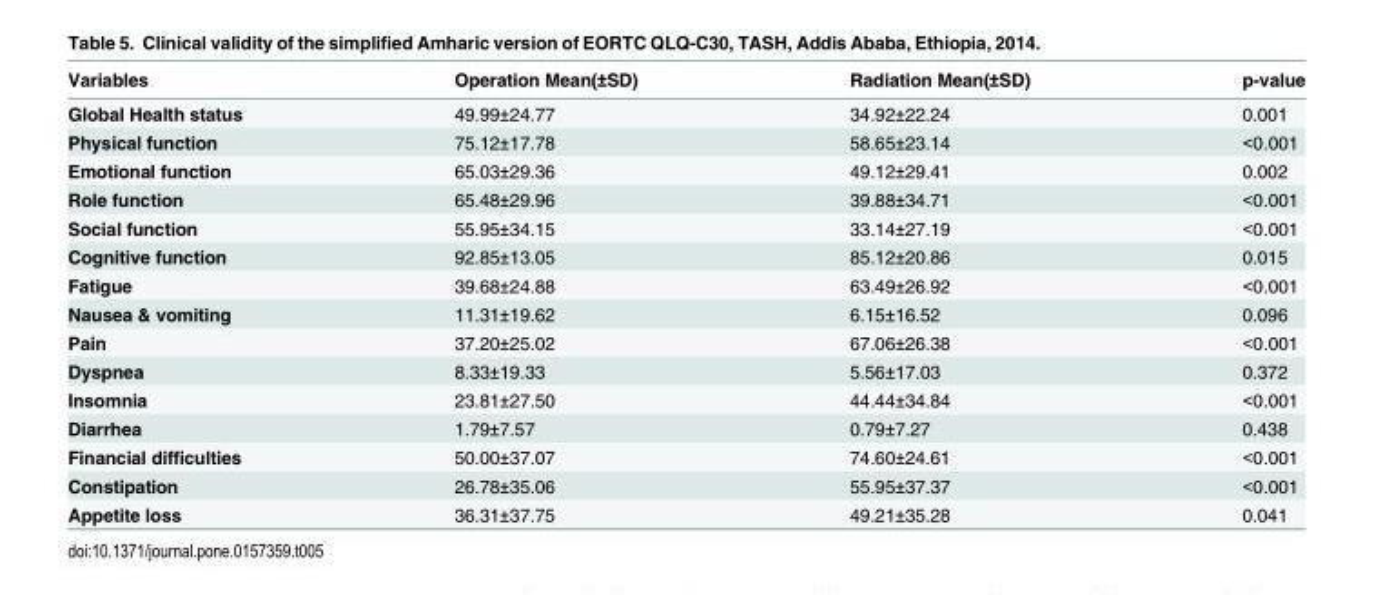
<table><thead><tr><td>Variables</td><td>Operation Mean(±SD)</td><td>Radiation Mean(±SD)</td><td>p-value</td></tr></thead><tbody><tr><td>Global Health status</td><td>49.99±24.77</td><td>34.92±22.24</td><td>0.001</td></tr><tr><td>Physical function</td><td>75.12±17.78</td><td>58.65±23.14</td><td>&lt;0.001</td></tr><tr><td>Emotional function</td><td>65.03±29.36</td><td>49.12±29.41</td><td>0.002</td></tr><tr><td>Role function</td><td>65.48±29.96</td><td>39.88±34.71</td><td>&lt;0.001</td></tr><tr><td>Social function</td><td>55.95±34.15</td><td>33.14±27.19</td><td>&lt;0.001</td></tr><tr><td>Cognitive function</td><td>92.85±13.05</td><td>85.12±20.86</td><td>0.015</td></tr><tr><td>Fatigue</td><td>39.68±24.88</td><td>63.49±26.92</td><td>&lt;0.001</td></tr><tr><td>Nausea &amp; vomiting</td><td>11.31±19.62</td><td>6.15±16.52</td><td>0.096</td></tr><tr><td>Pain</td><td>37.20±25.02</td><td>67.06±26.38</td><td>&lt;0.001</td></tr><tr><td>Dyspnea</td><td>8.33±19.33</td><td>5.56±17.03</td><td>0.372</td></tr><tr><td>Insomnia</td><td>23.81±27.50</td><td>44.44±34.84</td><td>&lt;0.001</td></tr><tr><td>Diarrhea</td><td>1.79±7.57</td><td>0.79±7.27</td><td>0.438</td></tr><tr><td>Financial difficulties</td><td>50.00±37.07</td><td>74.60±24.61</td><td>&lt;0.001</td></tr><tr><td>Constipation</td><td>26.78±35.06</td><td>55.95±37.37</td><td>&lt;0.001</td></tr><tr><td>Appetite loss</td><td>36.31±37.75</td><td>49.21±35.28</td><td>0.041</td></tr></tbody></table>